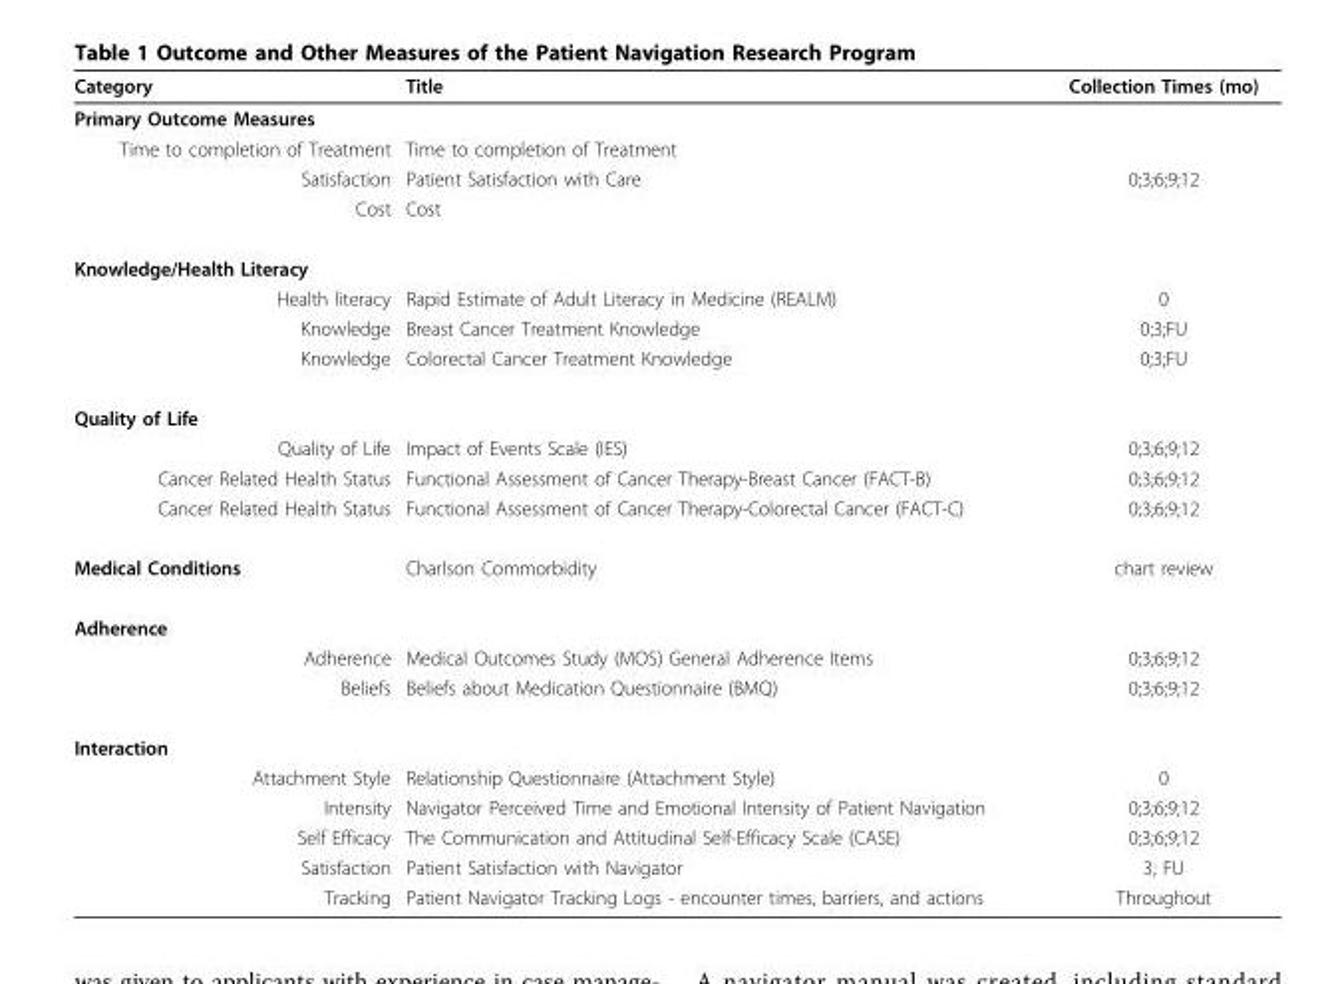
<table><thead><tr><td>Category</td><td>Title</td><td>Collection Times (mo)</td></tr></thead><tbody><tr><td colspan="3">Primary Outcome Measures</td></tr><tr><td>Time to completion of Treatment</td><td>Time to completion of Treatment</td><td></td></tr><tr><td>Satisfaction</td><td>Patient Satisfaction with Care</td><td>0;3;6;9;12</td></tr><tr><td>Cost</td><td>Cost</td><td></td></tr><tr><td colspan="3">Knowledge/Health Literacy</td></tr><tr><td>Health literacy</td><td>Rapid Estimate of Adult Literacy in Medicine (REALM)</td><td>0</td></tr><tr><td>Knowledge</td><td>Breast Cancer Treatment Knowledge</td><td>0;3;FU</td></tr><tr><td>Knowledge</td><td>Colorectal Cancer Treatment Knowledge</td><td>0;3;FU</td></tr><tr><td colspan="3">Quality of Life</td></tr><tr><td>Quality of Life</td><td>Impact of Events Scale (IES)</td><td>0;3;6;9;12</td></tr><tr><td>Cancer Related Health Status</td><td>Functional Assessment of Cancer Therapy-Breast Cancer (FACT-B)</td><td>0;3;6;9;12</td></tr><tr><td>Cancer Related Health Status</td><td>Functional Assessment of Cancer Therapy-Colorectal Cancer (FACT-C)</td><td>0;3;6;9;12</td></tr><tr><td>Medical Conditions</td><td>Charlson Commorbidity</td><td>chart review</td></tr><tr><td colspan="3">Adherence</td></tr><tr><td>Adherence</td><td>Medical Outcomes Study (MOS) General Adherence Items</td><td>0;3;6;9;12</td></tr><tr><td>Beliefs</td><td>Beliefs about Medication Questionnaire (BMQ)</td><td>0;3;6;9;12</td></tr><tr><td colspan="3">Interaction</td></tr><tr><td>Attachment Style</td><td>Relationship Questionnaire (Attachment Style)</td><td>0</td></tr><tr><td>Intensity</td><td>Navigator Perceived Time and Emotional Intensity of Patient Navigation</td><td>0;3;6;9;12</td></tr><tr><td>Self Efficacy</td><td>The Communication and Attitudinal Self-Efficacy Scale (CASE)</td><td>0;3;6;9;12</td></tr><tr><td>Satisfaction</td><td>Patient Satisfaction with Navigator</td><td>3; FU</td></tr><tr><td>Tracking</td><td>Patient Navigator Tracking Logs - encounter times, barriers, and actions</td><td>Throughout</td></tr></tbody></table>